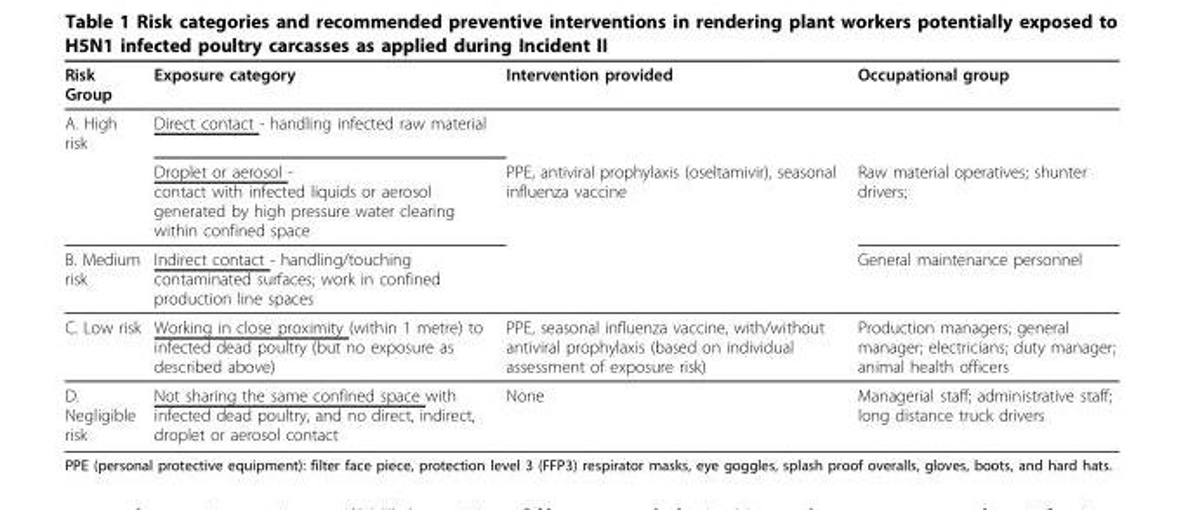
<table><thead><tr><td>Risk Group</td><td>Exposure category</td><td>Intervention provided</td><td>Occupational group</td></tr></thead><tbody><tr><td rowspan="2">A. High risk</td><td>Direct contact - handling infected raw material</td><td></td><td></td></tr><tr><td>Droplet or aerosol - contact with infected liquids or aerosol generated by high pressure water clearing within confined space</td><td>PPE, antiviral prophylaxis (oseltamivir), seasonal influenza vaccine</td><td>Raw material operatives; shunter drivers;</td></tr><tr><td>B. Medium risk</td><td>Indirect contact - handling/touching contaminated surfaces; work in confined production line spaces</td><td></td><td>General maintenance personnel</td></tr><tr><td>C. Low risk</td><td>Working in close proximity (within 1 metre) to infected dead poultry (but no exposure as described above)</td><td>PPE, seasonal influenza vaccine, with/without antiviral prophylaxis (based on individual assessment of exposure risk)</td><td>Production managers; general manager; electricians; duty manager; animal health officers</td></tr><tr><td>D. Negligible risk</td><td>Not sharing the same confined space with infected dead poultry, and no direct, indirect, droplet or aerosol contact</td><td>None</td><td>Managerial staff; administrative staff; long distance truck drivers</td></tr></tbody></table>